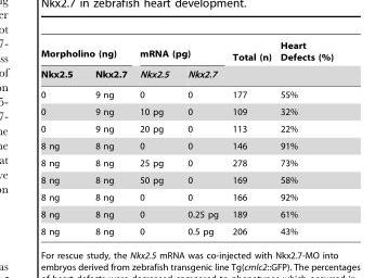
<table><thead><tr><td colspan="2">Morpholino (ng)</td><td colspan="2">mRNA (pg)</td><td rowspan="2">Total (n)</td><td rowspan="2">Heart Defects (%)</td></tr><tr><td>Nkx2.5</td><td>Nkx2.7</td><td>Nkx2.5</td><td>Nkx2.7</td></tr></thead><tbody><tr><td>0</td><td>9 ng</td><td>0</td><td>0</td><td>177</td><td>55%</td></tr><tr><td>0</td><td>9 ng</td><td>10 pg</td><td>0</td><td>109</td><td>32%</td></tr><tr><td>0</td><td>9 ng</td><td>20 pg</td><td>0</td><td>113</td><td>22%</td></tr><tr><td>8 ng</td><td>8 ng</td><td>0</td><td>0</td><td>146</td><td>91%</td></tr><tr><td>8 ng</td><td>8 ng</td><td>25 pg</td><td>0</td><td>278</td><td>73%</td></tr><tr><td>8 ng</td><td>8 ng</td><td>50 pg</td><td>0</td><td>169</td><td>58%</td></tr><tr><td>8 ng</td><td>8 ng</td><td>0</td><td>0</td><td>166</td><td>92%</td></tr><tr><td>8 ng</td><td>8 ng</td><td>0</td><td>0.25 pg</td><td>189</td><td>61%</td></tr><tr><td>8 ng</td><td>8 ng</td><td>0</td><td>0.5 pg</td><td>206</td><td>43%</td></tr></tbody></table>